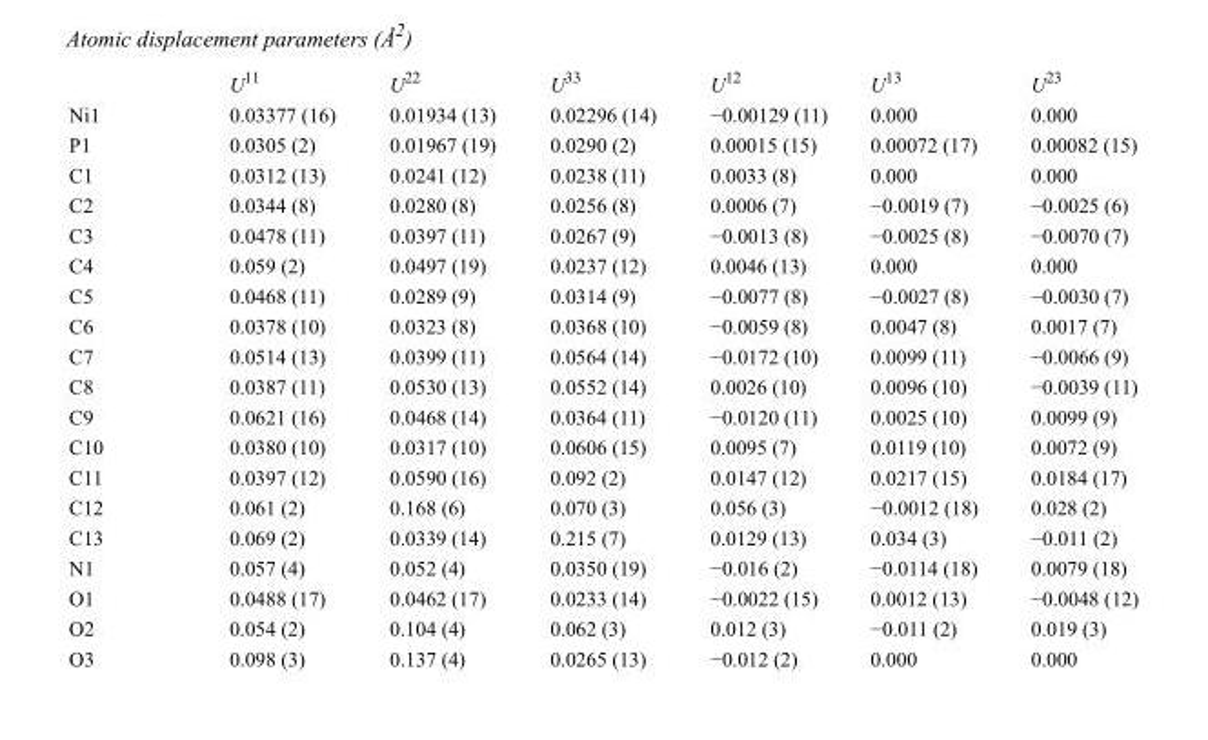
<table><thead><tr><td></td><td>U<sup>11</sup></td><td>U<sup>22</sup></td><td>U<sup>33</sup></td><td>U<sup>12</sup></td><td>U<sup>13</sup></td><td>U<sup>23</sup></td></tr></thead><tbody><tr><td>Ni1</td><td>0.03377 (16)</td><td>0.01934 (13)</td><td>0.02296 (14)</td><td>−0.00129 (11)</td><td>0.000</td><td>0.000</td></tr><tr><td>P1</td><td>0.0305 (2)</td><td>0.01967 (19)</td><td>0.0290 (2)</td><td>0.00015 (15)</td><td>0.00072 (17)</td><td>0.00082 (15)</td></tr><tr><td>C1</td><td>0.0312 (13)</td><td>0.0241 (12)</td><td>0.0238 (11)</td><td>0.0033 (8)</td><td>0.000</td><td>0.000</td></tr><tr><td>C2</td><td>0.0344 (8)</td><td>0.0280 (8)</td><td>0.0256 (8)</td><td>0.0006 (7)</td><td>−0.0019 (7)</td><td>−0.0025 (6)</td></tr><tr><td>C3</td><td>0.0478 (11)</td><td>0.0397 (11)</td><td>0.0267 (9)</td><td>−0.0013 (8)</td><td>−0.0025 (8)</td><td>−0.0070 (7)</td></tr><tr><td>C4</td><td>0.059 (2)</td><td>0.0497 (19)</td><td>0.0237 (12)</td><td>0.0046 (13)</td><td>0.000</td><td>0.000</td></tr><tr><td>C5</td><td>0.0468 (11)</td><td>0.0289 (9)</td><td>0.0314 (9)</td><td>−0.0077 (8)</td><td>−0.0027 (8)</td><td>−0.0030 (7)</td></tr><tr><td>C6</td><td>0.0378 (10)</td><td>0.0323 (8)</td><td>0.0368 (10)</td><td>−0.0059 (8)</td><td>0.0047 (8)</td><td>0.0017 (7)</td></tr><tr><td>C7</td><td>0.0514 (13)</td><td>0.0399 (11)</td><td>0.0564 (14)</td><td>−0.0172 (10)</td><td>0.0099 (11)</td><td>−0.0066 (9)</td></tr><tr><td>C8</td><td>0.0387 (11)</td><td>0.0530 (13)</td><td>0.0552 (14)</td><td>0.0026 (10)</td><td>0.0096 (10)</td><td>−0.0039 (11)</td></tr><tr><td>C9</td><td>0.0621 (16)</td><td>0.0468 (14)</td><td>0.0364 (11)</td><td>−0.0120 (11)</td><td>0.0025 (10)</td><td>0.0099 (9)</td></tr><tr><td>C10</td><td>0.0380 (10)</td><td>0.0317 (10)</td><td>0.0606 (15)</td><td>0.0095 (7)</td><td>0.0119 (10)</td><td>0.0072 (9)</td></tr><tr><td>C11</td><td>0.0397 (12)</td><td>0.0590 (16)</td><td>0.092 (2)</td><td>0.0147 (12)</td><td>0.0217 (15)</td><td>0.0184 (17)</td></tr><tr><td>C12</td><td>0.061 (2)</td><td>0.168 (6)</td><td>0.070 (3)</td><td>0.056 (3)</td><td>−0.0012 (18)</td><td>0.028 (2)</td></tr><tr><td>C13</td><td>0.069 (2)</td><td>0.0339 (14)</td><td>0.215 (7)</td><td>0.0129 (13)</td><td>0.034 (3)</td><td>−0.011 (2)</td></tr><tr><td>N1</td><td>0.057 (4)</td><td>0.052 (4)</td><td>0.0350 (19)</td><td>−0.016 (2)</td><td>−0.0114 (18)</td><td>0.0079 (18)</td></tr><tr><td>O1</td><td>0.0488 (17)</td><td>0.0462 (17)</td><td>0.0233 (14)</td><td>−0.0022 (15)</td><td>0.0012 (13)</td><td>−0.0048 (12)</td></tr><tr><td>O2</td><td>0.054 (2)</td><td>0.104 (4)</td><td>0.062 (3)</td><td>0.012 (3)</td><td>−0.011 (2)</td><td>0.019 (3)</td></tr><tr><td>O3</td><td>0.098 (3)</td><td>0.137 (4)</td><td>0.0265 (13)</td><td>−0.012 (2)</td><td>0.000</td><td>0.000</td></tr></tbody></table>